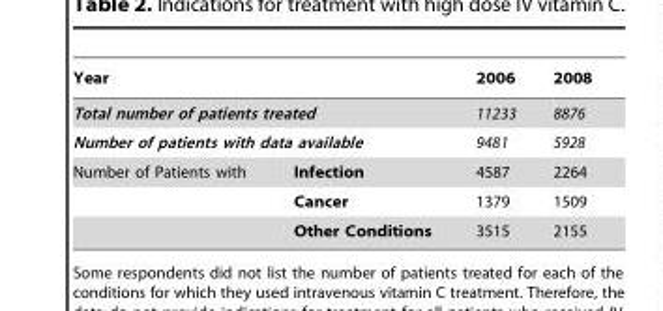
<table><thead><tr><td rowspan="3" colspan="2">Year Total number of patients treated Number of patients with data available</td><td rowspan="4">2006 11233 9481 4587</td><td rowspan="4">2008 8876 5928 2264</td></tr><tr></tr><tr></tr><tr><td>Number of Patients with</td><td>Infection</td></tr></thead><tbody><tr><td></td><td>Cancer</td><td>1379</td><td>1509</td></tr><tr><td></td><td>Other Conditions</td><td>3515</td><td>2155</td></tr></tbody></table>